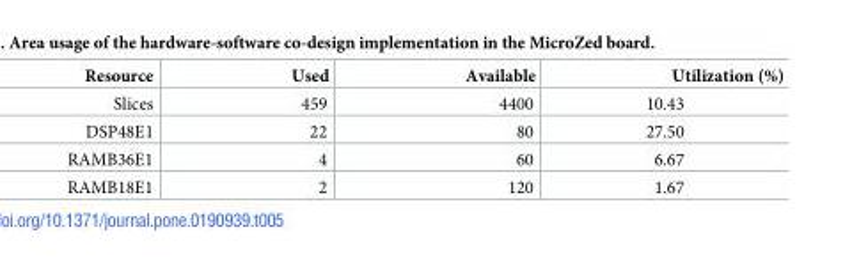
<table><thead><tr><td>Resource</td><td>Used</td><td>Available</td><td>Utilization (%)</td></tr></thead><tbody><tr><td>Slices</td><td>459</td><td>4400</td><td>10.43</td></tr><tr><td>DSP48E1</td><td>22</td><td>80</td><td>27.50</td></tr><tr><td>RAMB36E1</td><td>4</td><td>60</td><td>6.67</td></tr><tr><td>RAMB18E1</td><td>2</td><td>120</td><td>1.67</td></tr></tbody></table>